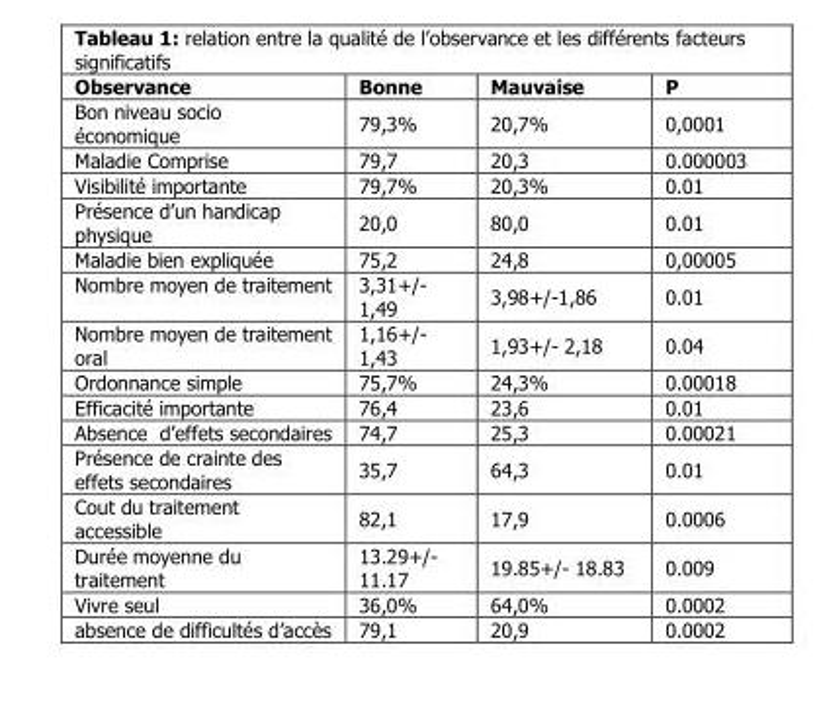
<table><thead><tr><td>Observance</td><td>Bonne</td><td>Mauvaise</td><td>P</td></tr></thead><tbody><tr><td>Bon niveau socio économique</td><td>79,3%</td><td>20,7%</td><td>0,0001</td></tr><tr><td>Maladie Comprise</td><td>79,7</td><td>20,3</td><td>0.000003</td></tr><tr><td>Visibilité importante</td><td>79,7%</td><td>20,3%</td><td>0.01</td></tr><tr><td>Présence d’un handicap physique</td><td>20,0</td><td>80,0</td><td>0.01</td></tr><tr><td>Maladie bien expliquée</td><td>75,2</td><td>24,8</td><td>0,00005</td></tr><tr><td>Nombre moyen de traitement</td><td>3,31+/- 1,49</td><td>3,98+/-1,86</td><td>0.01</td></tr><tr><td>Nombre moyen de traitement oral</td><td>1,16+/- 1,43</td><td>1,93+/- 2,18</td><td>0.04</td></tr><tr><td>Ordonnance simple</td><td>75,7%</td><td>24,3%</td><td>0.00018</td></tr><tr><td>Efficacité importante</td><td>76,4</td><td>23,6</td><td>0.01</td></tr><tr><td>Absence d’effets secondaires</td><td>74,7</td><td>25,3</td><td>0.00021</td></tr><tr><td>Présence de crainte des effets secondaires</td><td>35,7</td><td>64,3</td><td>0.01</td></tr><tr><td>Cout du traitement accessible</td><td>82,1</td><td>17,9</td><td>0.0006</td></tr><tr><td>Durée moyenne du traitement</td><td>13.29+/- 11.17</td><td>19.85+/- 18.83</td><td>0.009</td></tr><tr><td>Vivre seul</td><td>36,0%</td><td>64,0%</td><td>0.0002</td></tr><tr><td>absence de difficultés d’accès</td><td>79,1</td><td>20,9</td><td>0.0002</td></tr></tbody></table>